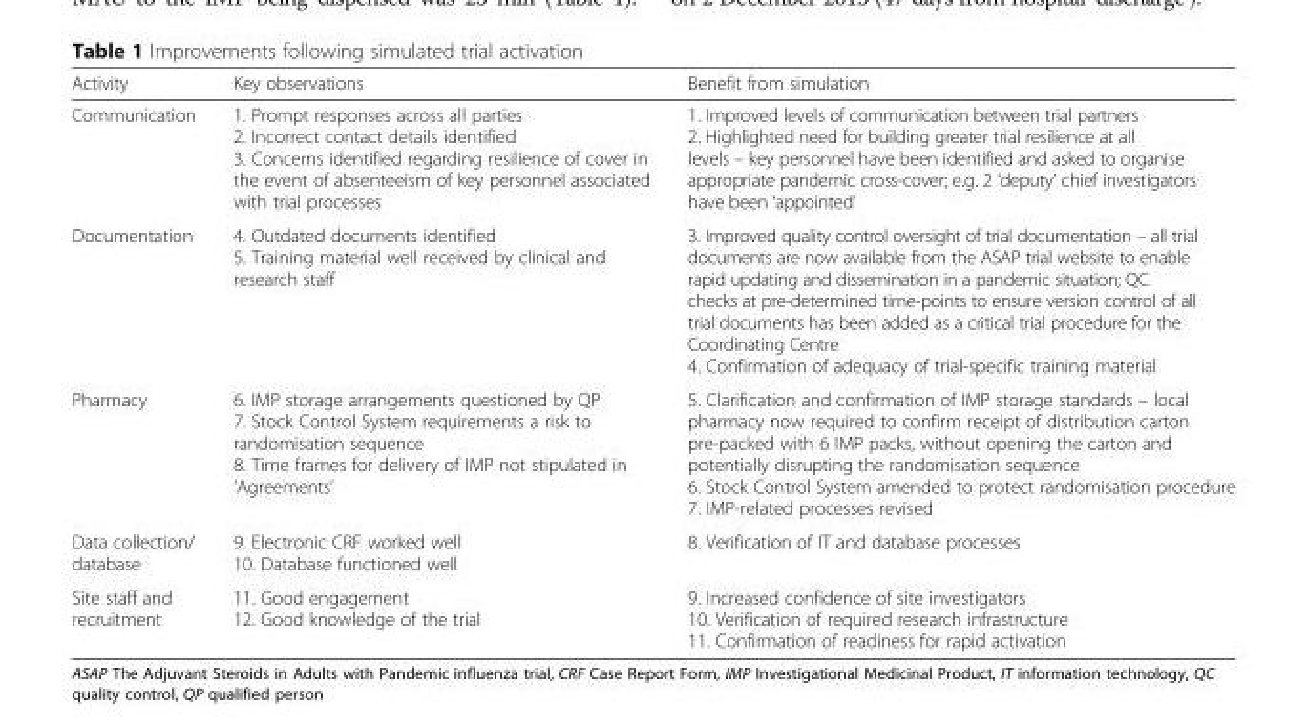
<table><thead><tr><td>Activity</td><td>Key observations</td><td>Benefit from simulation</td></tr></thead><tbody><tr><td>Communication</td><td>1. Prompt responses across all parties 2. Incorrect contact details identified 3. Concerns identified regarding resilience of cover in the event of absenteeism of key personnel associated with trial processes</td><td>1. Improved levels of communication between trial partners 2. Highlighted need for building greater trial resilience at all levels – key personnel have been identified and asked to organise appropriate pandemic cross-cover; e.g. 2 ‘deputy’ chief investigators have been ‘appointed’</td></tr><tr><td>Documentation</td><td>4. Outdated documents identified 5. Training material well received by clinical and research staff</td><td>3. Improved quality control oversight of trial documentation – all trial documents are now available from the ASAP trial website to enable rapid updating and dissemination in a pandemic situation; QC checks at pre-determined time-points to ensure version control of all trial documents has been added as a critical trial procedure for the Coordinating Centre 4. Confirmation of adequacy of trial-specific training material</td></tr><tr><td>Pharmacy</td><td>6. IMP storage arrangements questioned by QP 7. Stock Control System requirements a risk to randomisation sequence 8. Time frames for delivery of IMP not stipulated in ‘Agreements’</td><td>5. Clarification and confirmation of IMP storage standards – local pharmacy now required to confirm receipt of distribution carton pre-packed with 6 IMP packs, without opening the carton and potentially disrupting the randomisation sequence 6. Stock Control System amended to protect randomisation procedure 7. IMP-related processes revised</td></tr><tr><td>Data collection/ database</td><td>9. Electronic CRF worked well 10. Database functioned well</td><td>8. Verification of IT and database processes</td></tr><tr><td>Site staff and recruitment</td><td>11. Good engagement 12. Good knowledge of the trial</td><td>9. Increased confidence of site investigators 10. Verification of required research infrastructure 11. Confirmation of readiness for rapid activation</td></tr></tbody></table>